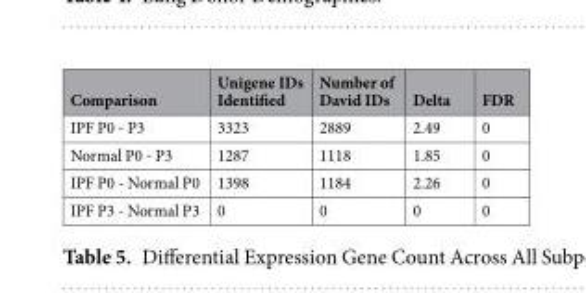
<table><thead><tr><td>Comparison</td><td>Unigene IDs Identified</td><td>Number of David IDs</td><td>Delta</td><td>FDR</td></tr></thead><tbody><tr><td>IPF P0 - P3</td><td>3323</td><td>2889</td><td>2.49</td><td>0</td></tr><tr><td>Normal P0 - P3</td><td>1287</td><td>1118</td><td>1.85</td><td>0</td></tr><tr><td>IPF P0 - Normal P0</td><td>1398</td><td>1184</td><td>2.26</td><td>0</td></tr><tr><td>IPF P3 - Normal P3</td><td>0</td><td>0</td><td>0</td><td>0</td></tr></tbody></table>